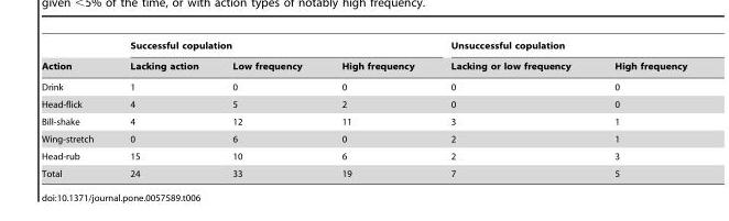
<table><thead><tr><td rowspan="2">Action</td><td colspan="3">Successful copulation</td><td colspan="2">Unsuccessful copulation</td></tr><tr><td>Lacking action</td><td>Low frequency</td><td>High frequency</td><td>Lacking or low frequency</td><td>High frequency</td></tr></thead><tbody><tr><td>Drink</td><td>1</td><td>0</td><td>0</td><td>0</td><td>0</td></tr><tr><td>Head-flick</td><td>4</td><td>5</td><td>2</td><td>0</td><td>0</td></tr><tr><td>Bill-shake</td><td>4</td><td>12</td><td>11</td><td>3</td><td>1</td></tr><tr><td>Wing-stretch</td><td>0</td><td>6</td><td>0</td><td>2</td><td>1</td></tr><tr><td>Head-rub</td><td>15</td><td>10</td><td>6</td><td>2</td><td>3</td></tr><tr><td>Total</td><td>24</td><td>33</td><td>19</td><td>7</td><td>5</td></tr></tbody></table>